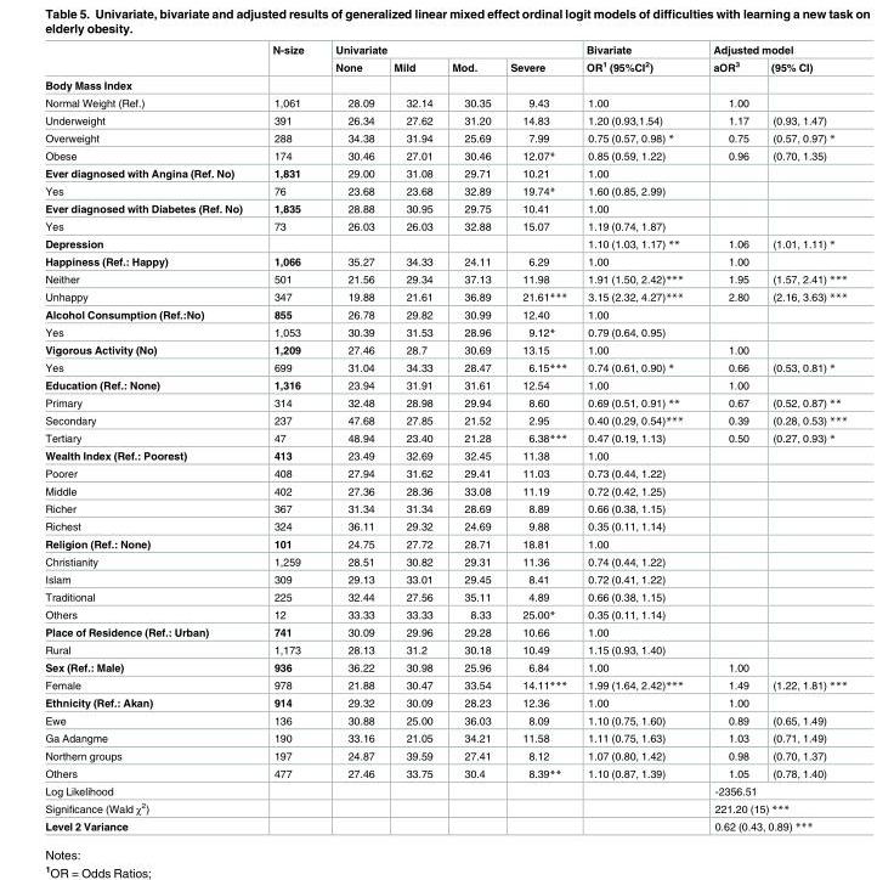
<table><thead><tr><td rowspan="2"></td><td rowspan="2">N-size</td><td colspan="4">Univariate</td><td rowspan="2">Bivariate OR<sup>1</sup> (95%CI<sup>2</sup>)</td><td colspan="2">Adjusted model</td></tr><tr><td>None</td><td>Mild</td><td>Mod.</td><td>Severe</td><td>aOR<sup>3</sup></td><td>(95% CI)</td></tr></thead><tbody><tr><td colspan="9">Body Mass Index</td></tr><tr><td>Normal Weight (Ref.)</td><td>1,061</td><td>28.09</td><td>32.14</td><td>30.35</td><td>9.43</td><td>1.00</td><td>1.00</td><td></td></tr><tr><td>Underweight</td><td>391</td><td>26.34</td><td>27.62</td><td>31.20</td><td>14.83</td><td>1.20 (0.93,1.54)</td><td>1.17</td><td>(0.93, 1.47)</td></tr><tr><td>Overweight</td><td>288</td><td>34.38</td><td>31.94</td><td>25.69</td><td>7.99</td><td>0.75 (0.57, 0.98) *</td><td>0.75</td><td>(0.57, 0.97) *</td></tr><tr><td>Obese</td><td>174</td><td>30.46</td><td>27.01</td><td>30.46</td><td>12.07*</td><td>0.85 (0.59, 1.22)</td><td>0.96</td><td>(0.70, 1.35)</td></tr><tr><td>Ever diagnosed with Angina (Ref. No)</td><td>1,831</td><td>29.00</td><td>31.08</td><td>29.71</td><td>10.21</td><td>1.00</td><td></td><td></td></tr><tr><td>Yes</td><td>76</td><td>23.68</td><td>23.68</td><td>32.89</td><td>19.74*</td><td>1.60 (0.85, 2.99)</td><td></td><td></td></tr><tr><td>Ever diagnosed with Diabetes (Ref. No)</td><td>1,835</td><td>28.88</td><td>30.95</td><td>29.75</td><td>10.41</td><td>1.00</td><td></td><td></td></tr><tr><td>Yes</td><td>73</td><td>26.03</td><td>26.03</td><td>32.88</td><td>15.07</td><td>1.19 (0.74, 1.87)</td><td></td><td></td></tr><tr><td>Depression</td><td></td><td></td><td></td><td></td><td></td><td>1.10 (1.03, 1.17) **</td><td>1.06</td><td>(1.01, 1.11) *</td></tr><tr><td>Happiness (Ref.: Happy)</td><td>1,066</td><td>35.27</td><td>34.33</td><td>24.11</td><td>6.29</td><td>1.00</td><td>1.00</td><td></td></tr><tr><td>Neither</td><td>501</td><td>21.56</td><td>29.34</td><td>37.13</td><td>11.98</td><td>1.91 (1.50, 2.42)***</td><td>1.95</td><td>(1.57, 2.41) ***</td></tr><tr><td>Unhappy</td><td>347</td><td>19.88</td><td>21.61</td><td>36.89</td><td>21.61***</td><td>3.15 (2.32, 4.27)***</td><td>2.80</td><td>(2.16, 3.63) ***</td></tr><tr><td>Alcohol Consumption (Ref.:No)</td><td>855</td><td>26.78</td><td>29.82</td><td>30.99</td><td>12.40</td><td>1.00</td><td></td><td></td></tr><tr><td>Yes</td><td>1,053</td><td>30.39</td><td>31.53</td><td>28.96</td><td>9.12*</td><td>0.79 (0.64, 0.95)</td><td></td><td></td></tr><tr><td>Vigorous Activity (No)</td><td>1,209</td><td>27.46</td><td>28.7</td><td>30.69</td><td>13.15</td><td>1.00</td><td>1.00</td><td></td></tr><tr><td>Yes</td><td>699</td><td>31.04</td><td>34.33</td><td>28.47</td><td>6.15***</td><td>0.74 (0.61, 0.90) *</td><td>0.66</td><td>(0.53, 0.81) *</td></tr><tr><td>Education (Ref.: None)</td><td>1,316</td><td>23.94</td><td>31.91</td><td>31.61</td><td>12.54</td><td>1.00</td><td>1.00</td><td></td></tr><tr><td>Primary</td><td>314</td><td>32.48</td><td>28.98</td><td>29.94</td><td>8.60</td><td>0.69 (0.51, 0.91) **</td><td>0.67</td><td>(0.52, 0.87) **</td></tr><tr><td>Secondary</td><td>237</td><td>47.68</td><td>27.85</td><td>21.52</td><td>2.95</td><td>0.40 (0.29, 0.54)***</td><td>0.39</td><td>(0.28, 0.53) ***</td></tr><tr><td>Tertiary</td><td>47</td><td>48.94</td><td>23.40</td><td>21.28</td><td>6.38***</td><td>0.47 (0.19, 1.13)</td><td>0.50</td><td>(0.27, 0.93) *</td></tr><tr><td>Wealth Index (Ref.: Poorest)</td><td>413</td><td>23.49</td><td>32.69</td><td>32.45</td><td>11.38</td><td>1.00</td><td></td><td></td></tr><tr><td>Poorer</td><td>408</td><td>27.94</td><td>31.62</td><td>29.41</td><td>11.03</td><td>0.73 (0.44, 1.22)</td><td></td><td></td></tr><tr><td>Middle</td><td>402</td><td>27.36</td><td>28.36</td><td>33.08</td><td>11.19</td><td>0.72 (0.42, 1.25)</td><td></td><td></td></tr><tr><td>Richer</td><td>367</td><td>31.34</td><td>31.34</td><td>28.69</td><td>8.89</td><td>0.66 (0.38, 1.15)</td><td></td><td></td></tr><tr><td>Richest</td><td>324</td><td>36.11</td><td>29.32</td><td>24.69</td><td>9.88</td><td>0.35 (0.11, 1.14)</td><td></td><td></td></tr><tr><td>Religion (Ref.: None)</td><td>101</td><td>24.75</td><td>27.72</td><td>28.71</td><td>18.81</td><td>1.00</td><td></td><td></td></tr><tr><td>Christianity</td><td>1,259</td><td>28.51</td><td>30.82</td><td>29.31</td><td>11.36</td><td>0.74 (0.44, 1.22)</td><td></td><td></td></tr><tr><td>Islam</td><td>309</td><td>29.13</td><td>33.01</td><td>29.45</td><td>8.41</td><td>0.72 (0.41, 1.22)</td><td></td><td></td></tr><tr><td>Traditional</td><td>225</td><td>32.44</td><td>27.56</td><td>35.11</td><td>4.89</td><td>0.66 (0.38, 1.15)</td><td></td><td></td></tr><tr><td>Others</td><td>12</td><td>33.33</td><td>33.33</td><td>8.33</td><td>25.00*</td><td>0.35 (0.11, 1.14)</td><td></td><td></td></tr><tr><td>Place of Residence (Ref.: Urban)</td><td>741</td><td>30.09</td><td>29.96</td><td>29.28</td><td>10.66</td><td>1.00</td><td></td><td></td></tr><tr><td>Rural</td><td>1,173</td><td>28.13</td><td>31.2</td><td>30.18</td><td>10.49</td><td>1.15 (0.93, 1.40)</td><td></td><td></td></tr><tr><td>Sex (Ref.: Male)</td><td>936</td><td>36.22</td><td>30.98</td><td>25.96</td><td>6.84</td><td>1.00</td><td>1.00</td><td></td></tr><tr><td>Female</td><td>978</td><td>21.88</td><td>30.47</td><td>33.54</td><td>14.11***</td><td>1.99 (1.64, 2.42)***</td><td>1.49</td><td>(1.22, 1.81) ***</td></tr><tr><td>Ethnicity (Ref.: Akan)</td><td>914</td><td>29.32</td><td>30.09</td><td>28.23</td><td>12.36</td><td>1.00</td><td>1.00</td><td></td></tr><tr><td>Ewe</td><td>136</td><td>30.88</td><td>25.00</td><td>36.03</td><td>8.09</td><td>1.10 (0.75, 1.60)</td><td>0.89</td><td>(0.65, 1.49)</td></tr><tr><td>Ga Adangme</td><td>190</td><td>33.16</td><td>21.05</td><td>34.21</td><td>11.58</td><td>1.11 (0.75, 1.63)</td><td>1.03</td><td>(0.71, 1.49)</td></tr><tr><td>Northern groups</td><td>197</td><td>24.87</td><td>39.59</td><td>27.41</td><td>8.12</td><td>1.07 (0.80, 1.42)</td><td>0.98</td><td>(0.70, 1.37)</td></tr><tr><td>Others</td><td>477</td><td>27.46</td><td>33.75</td><td>30.4</td><td>8.39**</td><td>1.10 (0.87, 1.39)</td><td>1.05</td><td>(0.78, 1.40)</td></tr><tr><td>Log Likelihood</td><td></td><td></td><td></td><td></td><td></td><td></td><td colspan="2">-2356.51</td></tr><tr><td>Significance (Wald χ<sup>2</sup>)</td><td></td><td></td><td></td><td></td><td></td><td></td><td colspan="2">221.20 (15) ***</td></tr><tr><td>Level 2 Variance</td><td></td><td></td><td></td><td></td><td></td><td></td><td colspan="2">0.62 (0.43, 0.89) ***</td></tr></tbody></table>